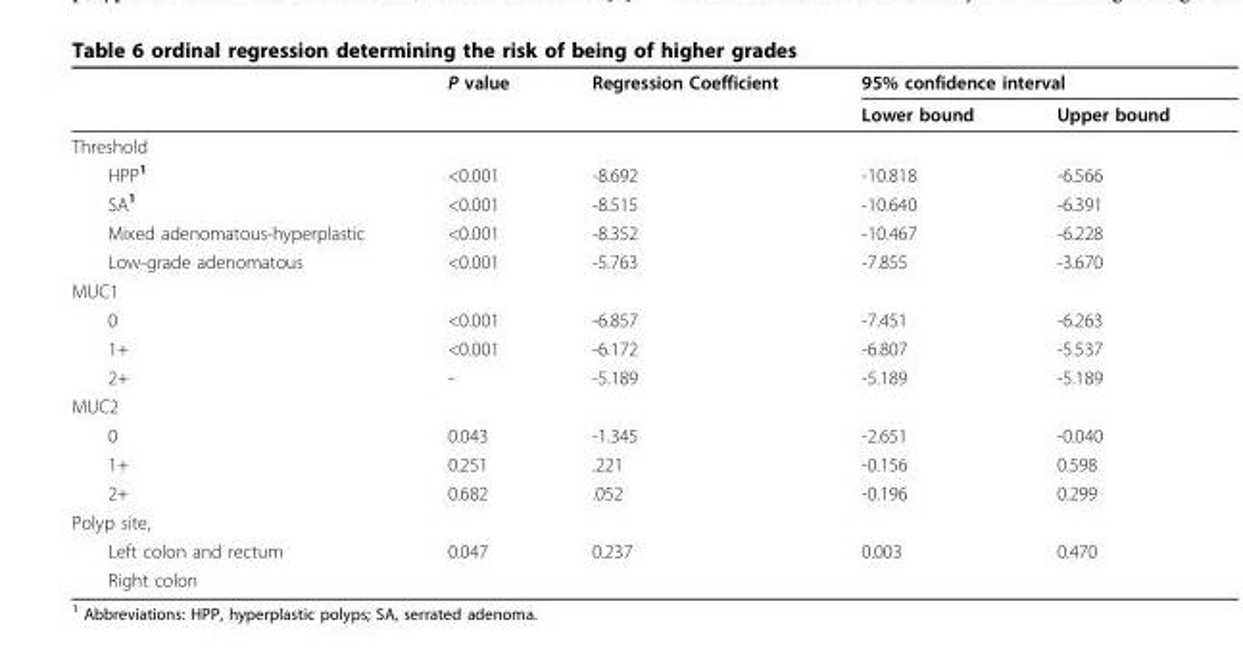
<table><thead><tr><td rowspan="2"></td><td rowspan="2">P value</td><td rowspan="2">Regression Coefficient</td><td colspan="2">95% confidence interval</td></tr><tr><td>Lower bound</td><td>Upper bound</td></tr></thead><tbody><tr><td colspan="5">Threshold</td></tr><tr><td>HPP<sup>1</sup></td><td>&lt;0.001</td><td>-8.692</td><td>-10.818</td><td>-6.566</td></tr><tr><td>SA<sup>1</sup></td><td>&lt;0.001</td><td>-8.515</td><td>-10.640</td><td>-6.391</td></tr><tr><td>Mixed adenomatous-hyperplastic</td><td>&lt;0.001</td><td>-8.352</td><td>-10.467</td><td>-6.228</td></tr><tr><td>Low-grade adenomatous</td><td>&lt;0.001</td><td>-5.763</td><td>-7.855</td><td>-3.670</td></tr><tr><td colspan="5">MUC1</td></tr><tr><td>0</td><td>&lt;0.001</td><td>-6.857</td><td>-7.451</td><td>-6.263</td></tr><tr><td>1+</td><td>&lt;0.001</td><td>-6.172</td><td>-6.807</td><td>-5.537</td></tr><tr><td>2+</td><td>-</td><td>-5.189</td><td>-5.189</td><td>-5.189</td></tr><tr><td colspan="5">MUC2</td></tr><tr><td>0</td><td>0.043</td><td>-1.345</td><td>-2.651</td><td>-0.040</td></tr><tr><td>1+</td><td>0.251</td><td>.221</td><td>-0.156</td><td>0.598</td></tr><tr><td>2+</td><td>0.682</td><td>.052</td><td>-0.196</td><td>0.299</td></tr><tr><td colspan="5">Polyp site,</td></tr><tr><td>Left colon and rectum</td><td>0.047</td><td>0.237</td><td>0.003</td><td>0.470</td></tr><tr><td>Right colon</td><td></td><td></td><td></td><td></td></tr></tbody></table>